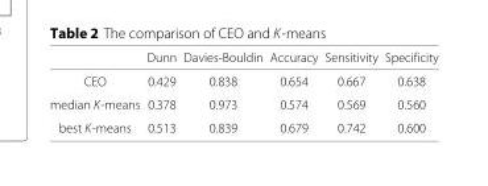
<table><thead><tr><td></td><td>Dunn</td><td>Davies-Bouldin</td><td>Accuracy</td><td>Sensitivity</td><td>Specificity</td></tr></thead><tbody><tr><td>CEO</td><td>0.429</td><td>0.838</td><td>0.654</td><td>0.667</td><td>0.638</td></tr><tr><td>median K-means</td><td>0.378</td><td>0.973</td><td>0.574</td><td>0.569</td><td>0.560</td></tr><tr><td>best K-means</td><td>0.513</td><td>0.839</td><td>0.679</td><td>0.742</td><td>0.600</td></tr></tbody></table>